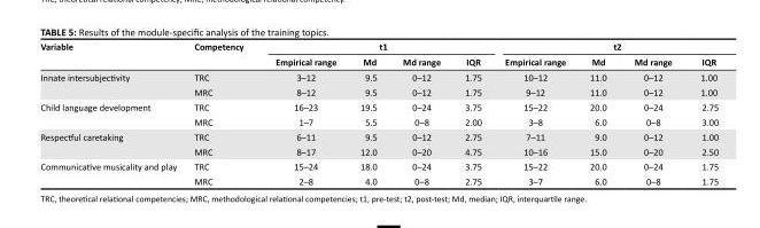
<table><thead><tr><td rowspan="2">Variable</td><td rowspan="2">Competency</td><td colspan="4">t1</td><td colspan="4">t2</td></tr><tr><td>Empirical range</td><td>Md</td><td>Md range</td><td>IQR</td><td>Empirical range</td><td>Md</td><td>Md range</td><td>IQR</td></tr></thead><tbody><tr><td rowspan="2">Innate intersubjectivity</td><td>TRC</td><td>3–12</td><td>9.5</td><td>0–12</td><td>1.75</td><td>10–12</td><td>11.0</td><td>0–12</td><td>1.00</td></tr><tr><td>MRC</td><td>8–12</td><td>9.5</td><td>0–12</td><td>1.75</td><td>9–12</td><td>11.0</td><td>0–12</td><td>1.00</td></tr><tr><td rowspan="2">Child language development</td><td>TRC</td><td>16–23</td><td>19.5</td><td>0–24</td><td>3.75</td><td>15–22</td><td>20.0</td><td>0–24</td><td>2.75</td></tr><tr><td>MRC</td><td>1–7</td><td>5.5</td><td>0–8</td><td>2.00</td><td>3–8</td><td>6.0</td><td>0–8</td><td>3.00</td></tr><tr><td rowspan="2">Respectful caretaking</td><td>TRC</td><td>6–11</td><td>9.5</td><td>0–12</td><td>2.75</td><td>7–11</td><td>9.0</td><td>0–12</td><td>1.00</td></tr><tr><td>MRC</td><td>8–17</td><td>12.0</td><td>0–20</td><td>4.75</td><td>10–16</td><td>15.0</td><td>0–20</td><td>2.50</td></tr><tr><td rowspan="2">Communicative musicality and play</td><td>TRC</td><td>15–24</td><td>18.0</td><td>0–24</td><td>3.75</td><td>15–22</td><td>20.0</td><td>0–24</td><td>1.75</td></tr><tr><td>MRC</td><td>2–8</td><td>4.0</td><td>0–8</td><td>2.75</td><td>3–7</td><td>6.0</td><td>0–8</td><td>1.75</td></tr></tbody></table>